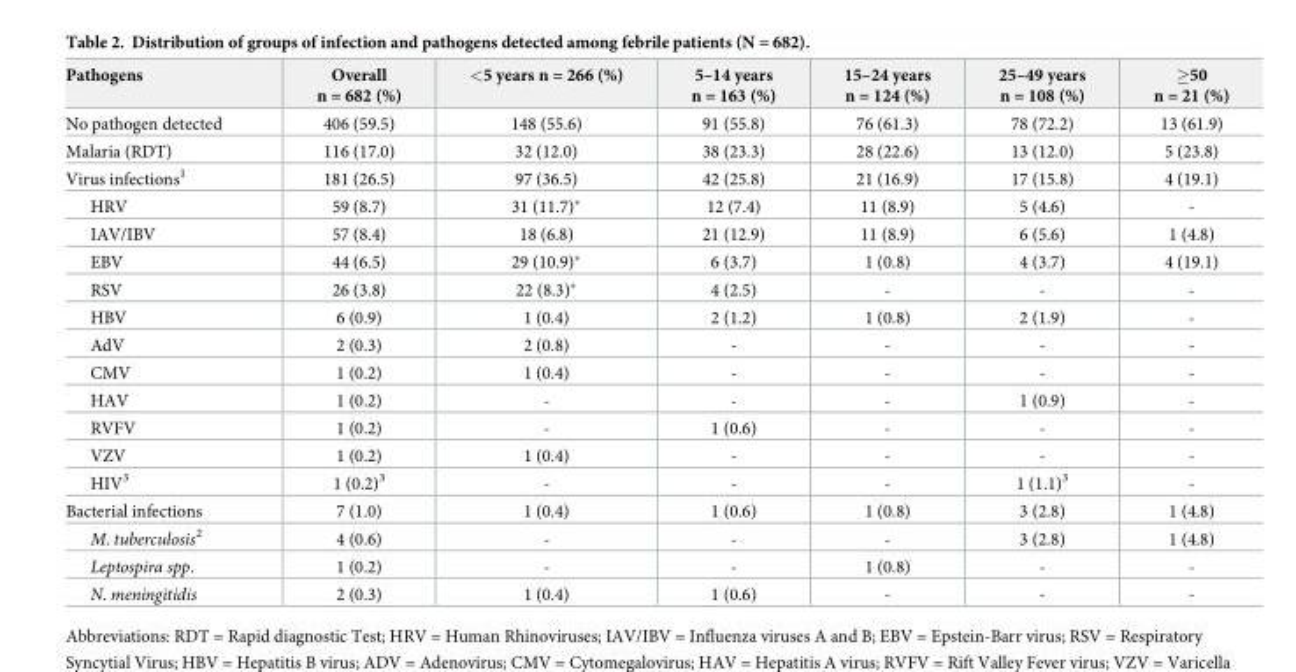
<table><thead><tr><td>Pathogens</td><td>Overall n = 682 (%)</td><td>&lt;5 years n = 266 (%)</td><td>5–14 years n = 163 (%)</td><td>15–24 years n = 124 (%)</td><td>25–49 years n = 108 (%)</td><td>≥50 n = 21 (%)</td></tr></thead><tbody><tr><td>No pathogen detected</td><td>406 (59.5)</td><td>148 (55.6)</td><td>91 (55.8)</td><td>76 (61.3)</td><td>78 (72.2)</td><td>13 (61.9)</td></tr><tr><td>Malaria (RDT)</td><td>116 (17.0)</td><td>32 (12.0)</td><td>38 (23.3)</td><td>28 (22.6)</td><td>13 (12.0)</td><td>5 (23.8)</td></tr><tr><td>Virus infections<sup>1</sup></td><td>181 (26.5)</td><td>97 (36.5)</td><td>42 (25.8)</td><td>21 (16.9)</td><td>17 (15.8)</td><td>4 (19.1)</td></tr><tr><td>HRV</td><td>59 (8.7)</td><td>31 (11.7)*</td><td>12 (7.4)</td><td>11 (8.9)</td><td>5 (4.6)</td><td>-</td></tr><tr><td>IAV/IBV</td><td>57 (8.4)</td><td>18 (6.8)</td><td>21 (12.9)</td><td>11 (8.9)</td><td>6 (5.6)</td><td>1 (4.8)</td></tr><tr><td>EBV</td><td>44 (6.5)</td><td>29 (10.9)*</td><td>6 (3.7)</td><td>1 (0.8)</td><td>4 (3.7)</td><td>4 (19.1)</td></tr><tr><td>RSV</td><td>26 (3.8)</td><td>22 (8.3)*</td><td>4 (2.5)</td><td>-</td><td>-</td><td>-</td></tr><tr><td>HBV</td><td>6 (0.9)</td><td>1 (0.4)</td><td>2 (1.2)</td><td>1 (0.8)</td><td>2 (1.9)</td><td>-</td></tr><tr><td>AdV</td><td>2 (0.3)</td><td>2 (0.8)</td><td>-</td><td>-</td><td>-</td><td>-</td></tr><tr><td>CMV</td><td>1 (0.2)</td><td>1 (0.4)</td><td>-</td><td>-</td><td>-</td><td>-</td></tr><tr><td>HAV</td><td>1 (0.2)</td><td>-</td><td>-</td><td>-</td><td>1 (0.9)</td><td>-</td></tr><tr><td>RVFV</td><td>1 (0.2)</td><td>-</td><td>1 (0.6)</td><td>-</td><td>-</td><td>-</td></tr><tr><td>VZV</td><td>1 (0.2)</td><td>1 (0.4)</td><td>-</td><td>-</td><td>-</td><td>-</td></tr><tr><td>HIV<sup>3</sup></td><td>1 (0.2)<sup>3</sup></td><td>-</td><td>-</td><td>-</td><td>1 (1.1)<sup>3</sup></td><td>-</td></tr><tr><td>Bacterial infections</td><td>7 (1.0)</td><td>1 (0.4)</td><td>1 (0.6)</td><td>1 (0.8)</td><td>3 (2.8)</td><td>1 (4.8)</td></tr><tr><td>M. tuberculosis<sup>2</sup></td><td>4 (0.6)</td><td>-</td><td>-</td><td>-</td><td>3 (2.8)</td><td>1 (4.8)</td></tr><tr><td>Leptospira spp.</td><td>1 (0.2)</td><td>-</td><td>-</td><td>1 (0.8)</td><td>-</td><td>-</td></tr><tr><td>N. meningitidis</td><td>2 (0.3)</td><td>1 (0.4)</td><td>1 (0.6)</td><td>-</td><td>-</td><td>-</td></tr></tbody></table>